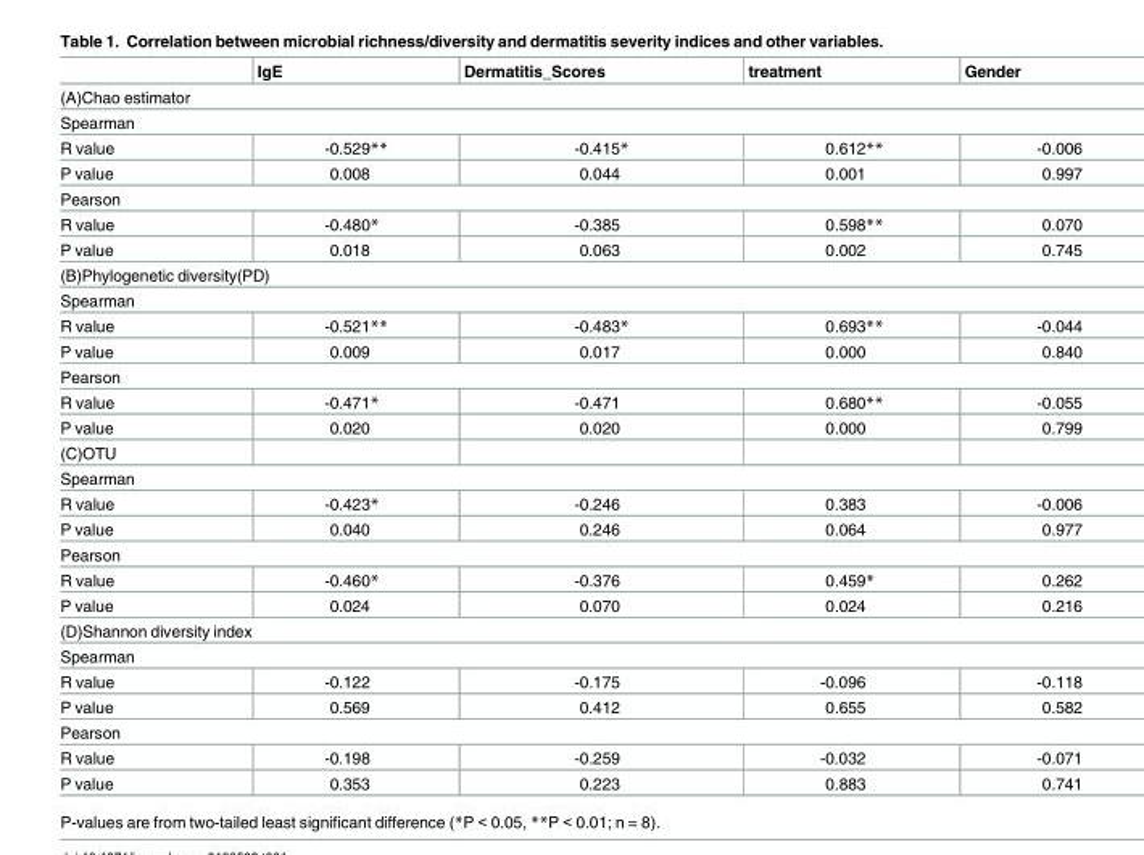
<table><thead><tr><td></td><td>IgE</td><td>Dermatitis_Scores</td><td>treatment</td><td>Gender</td></tr></thead><tbody><tr><td colspan="5">(A)Chao estimator</td></tr><tr><td colspan="5">Spearman</td></tr><tr><td>R value</td><td>-0.529**</td><td>-0.415*</td><td>0.612**</td><td>-0.006</td></tr><tr><td>P value</td><td>0.008</td><td>0.044</td><td>0.001</td><td>0.997</td></tr><tr><td colspan="5">Pearson</td></tr><tr><td>R value</td><td>-0.480*</td><td>-0.385</td><td>0.598**</td><td>0.070</td></tr><tr><td>P value</td><td>0.018</td><td>0.063</td><td>0.002</td><td>0.745</td></tr><tr><td colspan="5">(B)Phylogenetic diversity(PD)</td></tr><tr><td colspan="5">Spearman</td></tr><tr><td>R value</td><td>-0.521**</td><td>-0.483*</td><td>0.693**</td><td>-0.044</td></tr><tr><td>P value</td><td>0.009</td><td>0.017</td><td>0.000</td><td>0.840</td></tr><tr><td colspan="5">Pearson</td></tr><tr><td>R value</td><td>-0.471*</td><td>-0.471</td><td>0.680**</td><td>-0.055</td></tr><tr><td>P value</td><td>0.020</td><td>0.020</td><td>0.000</td><td>0.799</td></tr><tr><td colspan="5">(C)OTU</td></tr><tr><td colspan="5">Spearman</td></tr><tr><td>R value</td><td>-0.423*</td><td>-0.246</td><td>0.383</td><td>-0.006</td></tr><tr><td>P value</td><td>0.040</td><td>0.246</td><td>0.064</td><td>0.977</td></tr><tr><td colspan="5">Pearson</td></tr><tr><td>R value</td><td>-0.460*</td><td>-0.376</td><td>0.459*</td><td>0.262</td></tr><tr><td>P value</td><td>0.024</td><td>0.070</td><td>0.024</td><td>0.216</td></tr><tr><td colspan="5">(D)Shannon diversity index</td></tr><tr><td colspan="5">Spearman</td></tr><tr><td>R value</td><td>-0.122</td><td>-0.175</td><td>-0.096</td><td>-0.118</td></tr><tr><td>P value</td><td>0.569</td><td>0.412</td><td>0.655</td><td>0.582</td></tr><tr><td colspan="5">Pearson</td></tr><tr><td>R value</td><td>-0.198</td><td>-0.259</td><td>-0.032</td><td>-0.071</td></tr><tr><td>P value</td><td>0.353</td><td>0.223</td><td>0.883</td><td>0.741</td></tr></tbody></table>